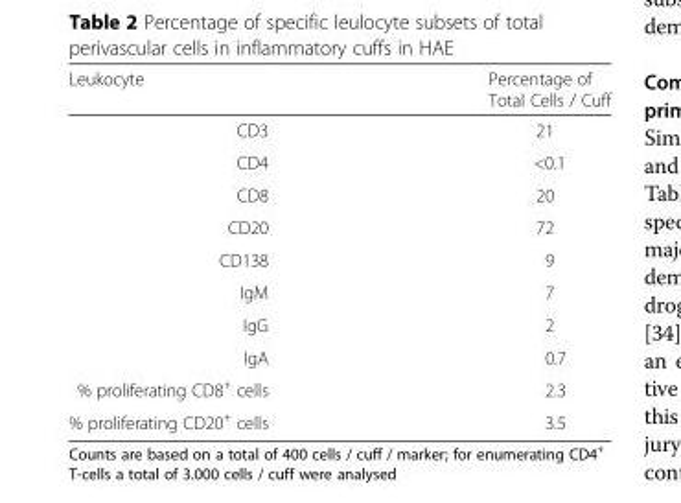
<table><thead><tr><td>Leukocyte</td><td>Percentage of Total Cells / Cuff</td></tr></thead><tbody><tr><td>CD3</td><td>21</td></tr><tr><td>CD4</td><td>&lt;0.1</td></tr><tr><td>CD8</td><td>20</td></tr><tr><td>CD20</td><td>72</td></tr><tr><td>CD138</td><td>9</td></tr><tr><td>IgM</td><td>7</td></tr><tr><td>IgG</td><td>2</td></tr><tr><td>IgA</td><td>0.7</td></tr><tr><td>% proliferating CD8<sup>+</sup> cells</td><td>2.3</td></tr><tr><td>% proliferating CD20<sup>+</sup> cells</td><td>3.5</td></tr></tbody></table>